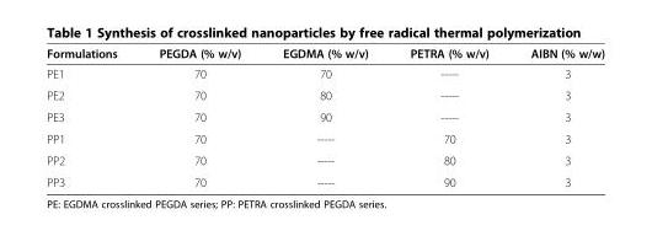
<table><thead><tr><td>Formulations</td><td>PEGDA (% w/v)</td><td>EGDMA (% w/v)</td><td>PETRA (% w/v)</td><td>AIBN (% w/w)</td></tr></thead><tbody><tr><td>PE1</td><td>70</td><td>70</td><td>-----</td><td>3</td></tr><tr><td>PE2</td><td>70</td><td>80</td><td>-----</td><td>3</td></tr><tr><td>PE3</td><td>70</td><td>90</td><td>-----</td><td>3</td></tr><tr><td>PP1</td><td>70</td><td>-----</td><td>70</td><td>3</td></tr><tr><td>PP2</td><td>70</td><td>-----</td><td>80</td><td>3</td></tr><tr><td>PP3</td><td>70</td><td>-----</td><td>90</td><td>3</td></tr></tbody></table>